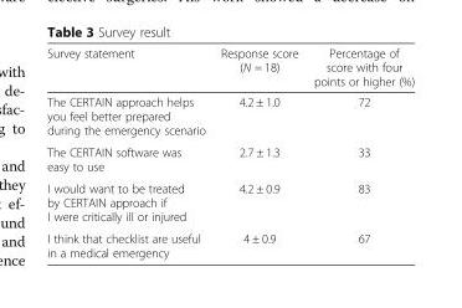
<table><thead><tr><td>Survey statement</td><td>Response score (N = 18)</td><td>Percentage of score with four points or higher (%)</td></tr></thead><tbody><tr><td>The CERTAIN approach helps you feel better prepared during the emergency scenario</td><td>4.2 ± 1.0</td><td>72</td></tr><tr><td>The CERTAIN software was easy to use</td><td>2.7 ± 1.3</td><td>33</td></tr><tr><td>I would want to be treated by CERTAIN approach if I were critically ill or injured</td><td>4.2 ± 0.9</td><td>83</td></tr><tr><td>I think that checklist are useful in a medical emergency</td><td>4 ± 0.9</td><td>67</td></tr></tbody></table>